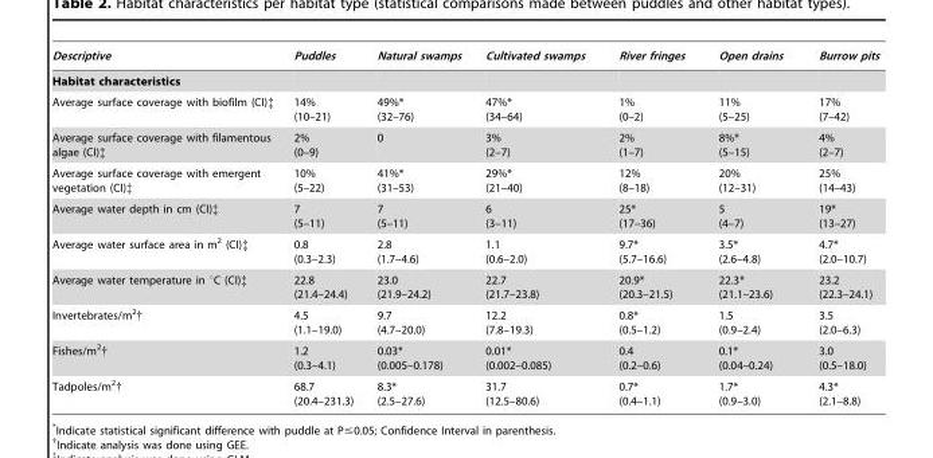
<table><thead><tr><td>Descriptive</td><td>Puddles</td><td>Natural swamps</td><td>Cultivated swamps</td><td>River fringes</td><td>Open drains</td><td>Burrow pits</td></tr></thead><tbody><tr><td colspan="7">Habitat characteristics</td></tr><tr><td>Average surface coverage with biofilm (CI)‡</td><td>14% (10–21)</td><td>49%* (32–76)</td><td>47%* (34–64)</td><td>1% (0–2)</td><td>11% (5–25)</td><td>17% (7–42)</td></tr><tr><td>Average surface coverage with filamentous algae (CI)‡</td><td>2% (0–9)</td><td>0</td><td>3% (2–7)</td><td>2% (1–7)</td><td>8%* (5–15)</td><td>4% (2–7)</td></tr><tr><td>Average surface coverage with emergent vegetation (CI)‡</td><td>10% (5–22)</td><td>41%* (31–53)</td><td>29%* (21–40)</td><td>12% (8–18)</td><td>20% (12–31)</td><td>25% (14–43)</td></tr><tr><td>Average water depth in cm (CI)‡</td><td>7 (5–11)</td><td>7 (5–11)</td><td>6 (3–11)</td><td>25* (17–36)</td><td>5 (4–7)</td><td>19* (13–27)</td></tr><tr><td>Average water surface area in m<sup>2</sup> (CI)‡</td><td>0.8 (0.3–2.3)</td><td>2.8 (1.7–4.6)</td><td>1.1 (0.6–2.0)</td><td>9.7* (5.7–16.6)</td><td>3.5* (2.6–4.8)</td><td>4.7* (2.0–10.7)</td></tr><tr><td>Average water temperature in °C (CI)‡</td><td>22.8 (21.4–24.4)</td><td>23.0 (21.9–24.2)</td><td>22.7 (21.7–23.8)</td><td>20.9* (20.3–21.5)</td><td>22.3* (21.1–23.6)</td><td>23.2 (22.3–24.1)</td></tr><tr><td>Invertebrates/m<sup>2</sup>†</td><td>4.5 (1.1–19.0)</td><td>9.7 (4.7–20.0)</td><td>12.2 (7.8–19.3)</td><td>0.8* (0.5–1.2)</td><td>1.5 (0.9–2.4)</td><td>3.5 (2.0–6.3)</td></tr><tr><td>Fishes/m<sup>2</sup>†</td><td>1.2 (0.3–4.1)</td><td>0.03* (0.005–0.178)</td><td>0.01* (0.002–0.085)</td><td>0.4 (0.2–0.6)</td><td>0.1* (0.04–0.24)</td><td>3.0 (0.5–18.0)</td></tr><tr><td>Tadpoles/m<sup>2</sup>†</td><td>68.7 (20.4–231.3)</td><td>8.3* (2.5–27.6)</td><td>31.7 (12.5–80.6)</td><td>0.7* (0.4–1.1)</td><td>1.7* (0.9–3.0)</td><td>4.3* (2.1–8.8)</td></tr></tbody></table>